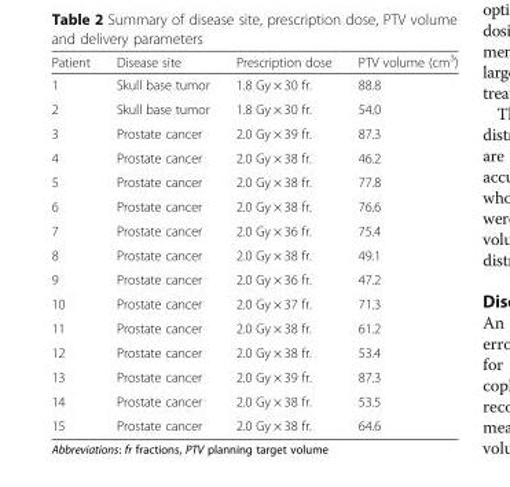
<table><thead><tr><td>Patient</td><td>Disease site</td><td>Prescription dose</td><td>PTV volume (cm<sup>3</sup>)</td></tr></thead><tbody><tr><td>1</td><td>Skull base tumor</td><td>1.8 Gy × 30 fr.</td><td>88.8</td></tr><tr><td>2</td><td>Skull base tumor</td><td>1.8 Gy × 30 fr.</td><td>54.0</td></tr><tr><td>3</td><td>Prostate cancer</td><td>2.0 Gy × 39 fr.</td><td>87.3</td></tr><tr><td>4</td><td>Prostate cancer</td><td>2.0 Gy × 38 fr.</td><td>46.2</td></tr><tr><td>5</td><td>Prostate cancer</td><td>2.0 Gy × 38 fr.</td><td>77.8</td></tr><tr><td>6</td><td>Prostate cancer</td><td>2.0 Gy × 38 fr.</td><td>76.6</td></tr><tr><td>7</td><td>Prostate cancer</td><td>2.0 Gy × 36 fr.</td><td>75.4</td></tr><tr><td>8</td><td>Prostate cancer</td><td>2.0 Gy × 38 fr.</td><td>49.1</td></tr><tr><td>9</td><td>Prostate cancer</td><td>2.0 Gy × 36 fr.</td><td>47.2</td></tr><tr><td>10</td><td>Prostate cancer</td><td>2.0 Gy × 37 fr.</td><td>71.3</td></tr><tr><td>11</td><td>Prostate cancer</td><td>2.0 Gy × 38 fr.</td><td>61.2</td></tr><tr><td>12</td><td>Prostate cancer</td><td>2.0 Gy × 38 fr.</td><td>53.4</td></tr><tr><td>13</td><td>Prostate cancer</td><td>2.0 Gy × 39 fr.</td><td>87.3</td></tr><tr><td>14</td><td>Prostate cancer</td><td>2.0 Gy × 38 fr.</td><td>53.5</td></tr><tr><td>15</td><td>Prostate cancer</td><td>2.0 Gy × 38 fr.</td><td>64.6</td></tr></tbody></table>